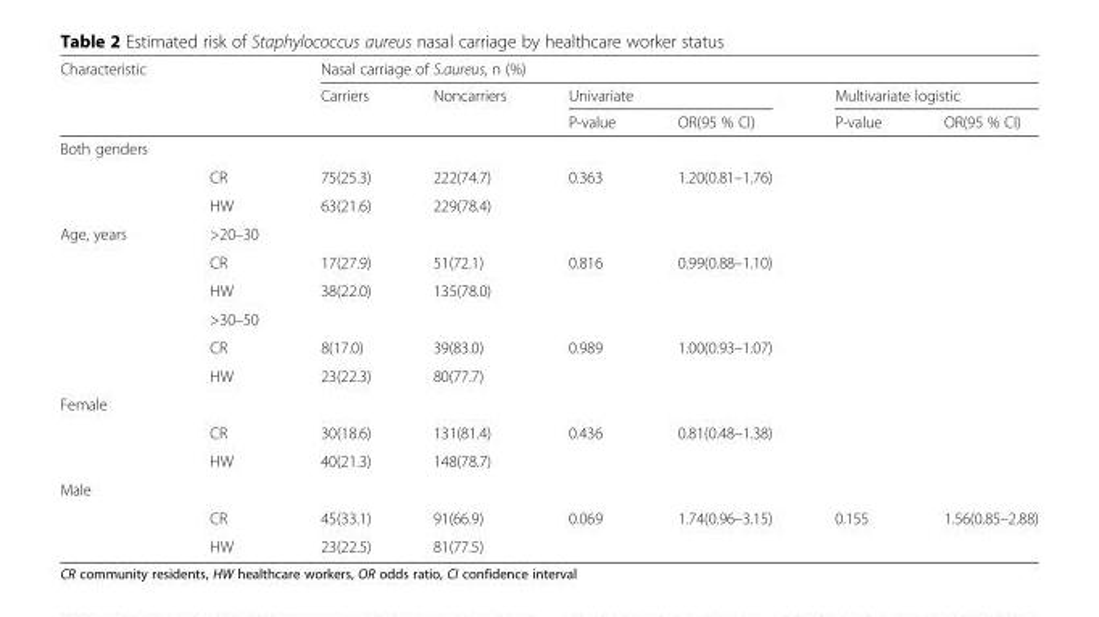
<table><thead><tr><td rowspan="3" colspan="2">Characteristic</td><td colspan="6">Nasal carriage of S.aureus, n (%)</td></tr><tr><td rowspan="3">Carriers</td><td rowspan="3">Noncarriers</td><td colspan="2">Univariate</td><td colspan="2">Multivariate logistic</td></tr><tr><td rowspan="2">P-value</td><td rowspan="2">OR(95 % CI)</td><td rowspan="2">P-value</td><td rowspan="2">OR(95 % CI)</td></tr><tr><td>Both genders</td><td></td></tr></thead><tbody><tr><td></td><td>CR</td><td>75(25.3)</td><td>222(74.7)</td><td>0.363</td><td>1.20(0.81–1.76)</td><td></td><td></td></tr><tr><td></td><td>HW</td><td>63(21.6)</td><td>229(78.4)</td><td></td><td></td><td></td><td></td></tr><tr><td rowspan="6">Age, years</td><td>&gt;20–30</td><td></td><td></td><td></td><td></td><td></td><td></td></tr><tr><td>CR</td><td>17(27.9)</td><td>51(72.1)</td><td>0.816</td><td>0.99(0.88–1.10)</td><td></td><td></td></tr><tr><td>HW</td><td>38(22.0)</td><td>135(78.0)</td><td></td><td></td><td></td><td></td></tr><tr><td>&gt;30–50</td><td></td><td></td><td></td><td></td><td></td><td></td></tr><tr><td>CR</td><td>8(17.0)</td><td>39(83.0)</td><td>0.989</td><td>1.00(0.93–1.07)</td><td></td><td></td></tr><tr><td>HW</td><td>23(22.3)</td><td>80(77.7)</td><td></td><td></td><td></td><td></td></tr><tr><td colspan="8">Female</td></tr><tr><td></td><td>CR</td><td>30(18.6)</td><td>131(81.4)</td><td>0.436</td><td>0.81(0.48–1.38)</td><td></td><td></td></tr><tr><td></td><td>HW</td><td>40(21.3)</td><td>148(78.7)</td><td></td><td></td><td></td><td></td></tr><tr><td colspan="8">Male</td></tr><tr><td></td><td>CR</td><td>45(33.1)</td><td>91(66.9)</td><td>0.069</td><td>1.74(0.96–3.15)</td><td>0.155</td><td>1.56(0.85–2.88)</td></tr><tr><td></td><td>HW</td><td>23(22.5)</td><td>81(77.5)</td><td></td><td></td><td></td><td></td></tr></tbody></table>